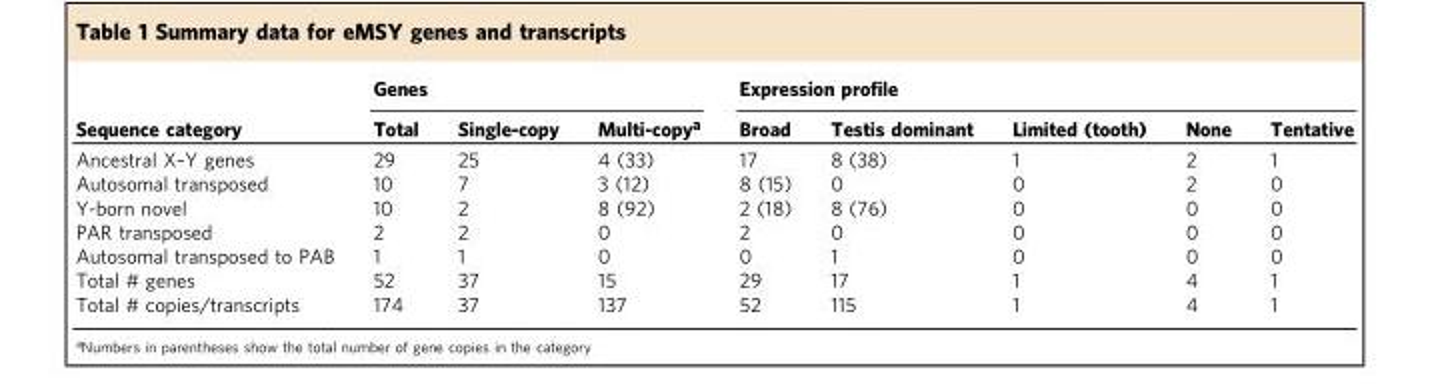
<table><thead><tr><td rowspan="2">Sequence category</td><td colspan="3">Genes</td><td colspan="5">Expression profile</td></tr><tr><td>Total</td><td>Single-copy</td><td>Multi-copy<sup>a</sup></td><td>Broad</td><td>Testis dominant</td><td>Limited (tooth)</td><td>None</td><td>Tentative</td></tr></thead><tbody><tr><td>Ancestral X–Y genes</td><td>29</td><td>25</td><td>4 (33)</td><td>17</td><td>8 (38)</td><td>1</td><td>2</td><td>1</td></tr><tr><td>Autosomal transposed</td><td>10</td><td>7</td><td>3 (12)</td><td>8 (15)</td><td>0</td><td>0</td><td>2</td><td>0</td></tr><tr><td>Y-born novel</td><td>10</td><td>2</td><td>8 (92)</td><td>2 (18)</td><td>8 (76)</td><td>0</td><td>0</td><td>0</td></tr><tr><td>PAR transposed</td><td>2</td><td>2</td><td>0</td><td>2</td><td>0</td><td>0</td><td>0</td><td>0</td></tr><tr><td>Autosomal transposed to PAB</td><td>1</td><td>1</td><td>0</td><td>0</td><td>1</td><td>0</td><td>0</td><td>0</td></tr><tr><td>Total # genes</td><td>52</td><td>37</td><td>15</td><td>29</td><td>17</td><td>1</td><td>4</td><td>1</td></tr><tr><td>Total # copies/transcripts</td><td>174</td><td>37</td><td>137</td><td>52</td><td>115</td><td>1</td><td>4</td><td>1</td></tr></tbody></table>